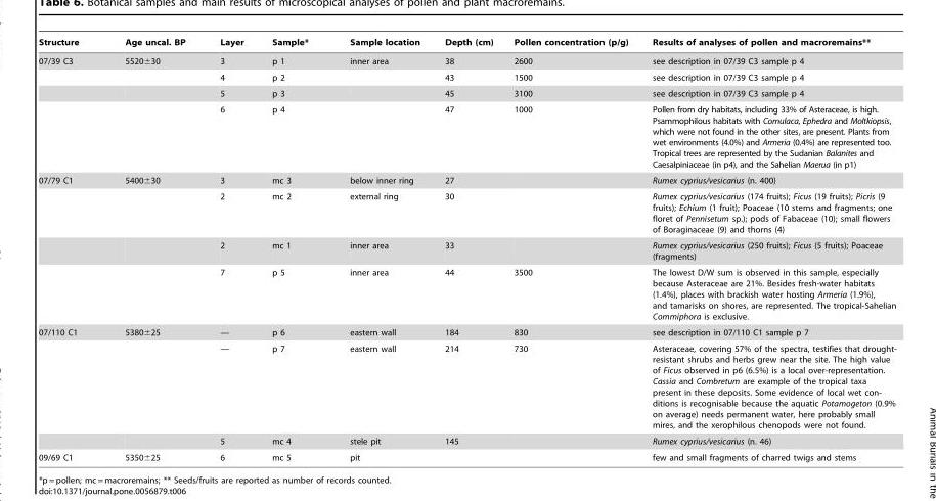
<table><thead><tr><td>Structure</td><td>Age uncal. BP</td><td>Layer</td><td>Sample*</td><td>Sample location</td><td>Depth (cm)</td><td>Pollen concentration (p/g)</td><td>Results of analyses of pollen and macroremains**</td></tr></thead><tbody><tr><td rowspan="4">07/39 C3</td><td>5520±30</td><td>3</td><td>p 1</td><td>inner area</td><td>38</td><td>2600</td><td>see description in 07/39 C3 sample p 4</td></tr><tr><td></td><td>4</td><td>p 2</td><td></td><td>43</td><td>1500</td><td>see description in 07/39 C3 sample p 4</td></tr><tr><td></td><td>5</td><td>p 3</td><td></td><td>45</td><td>3100</td><td>see description in 07/39 C3 sample p 4</td></tr><tr><td></td><td>6</td><td>p 4</td><td></td><td>47</td><td>1000</td><td>Pollen from dry habitats, including 33% of Asteraceae, is high. Psammophilous habitats with Cornulaca, Ephedra and Moltkiopsis, which were not found in the other sites, are present. Plants from wet environments (4.0%) and Armeria (0.4%) are represented too. Tropical trees are represented by the Sudanian Balanites and Caesalpiniaceae (in p4), and the Sahelian Maerua (in p1)</td></tr><tr><td rowspan="4">07/79 C1</td><td>5400±30</td><td>3</td><td>mc 3</td><td>below inner ring</td><td>27</td><td></td><td>Rumex cyprius/vesicarius (n. 400)</td></tr><tr><td></td><td>2</td><td>mc 2</td><td>external ring</td><td>30</td><td></td><td>Rumex cyprius/vesicarius (174 fruits); Ficus (19 fruits); Picris (9 fruits); Echium (1 fruit); Poaceae (10 stems and fragments; one floret of Pennisetum sp.); pods of Fabaceae (10); small flowers of Boraginaceae (9) and thorns (4)</td></tr><tr><td></td><td>2</td><td>mc 1</td><td>inner area</td><td>33</td><td></td><td>Rumex cyprius/vesicarius (250 fruits); Ficus (5 fruits); Poaceae (fragments)</td></tr><tr><td></td><td>7</td><td>p 5</td><td>inner area</td><td>44</td><td>3500</td><td>The lowest D/W sum is observed in this sample, especially because Asteraceae are 21%. Besides fresh-water habitats (1.4%), places with brackish water hosting Armeria (1.9%), and tamarisks on shores, are represented. The tropical-Sahelian Commiphora is exclusive.</td></tr><tr><td rowspan="3">07/110 C1</td><td>5380±25</td><td>—</td><td>p 6</td><td>eastern wall</td><td>184</td><td>830</td><td>see description in 07/110 C1 sample p 7</td></tr><tr><td></td><td>—</td><td>p 7</td><td>eastern wall</td><td>214</td><td>730</td><td>Asteraceae, covering 57% of the spectra, testifies that drought- resistant shrubs and herbs grew near the site. The high value of Ficus observed in p6 (6.5%) is a local over-representation. Cassia and Combretum are example of the tropical taxa present in these deposits. Some evidence of local wet con- ditions is recognisable because the aquatic Potamogeton (0.9% on average) needs permanent water, here probably small mires, and the xerophilous chenopods were not found.</td></tr><tr><td></td><td>5</td><td>mc 4</td><td>stele pit</td><td>145</td><td></td><td>Rumex cyprius/vesicarius (n. 46)</td></tr><tr><td>09/69 C1</td><td>5350±25</td><td>6</td><td>mc 5</td><td>pit</td><td></td><td></td><td>few and small fragments of charred twigs and stems</td></tr></tbody></table>